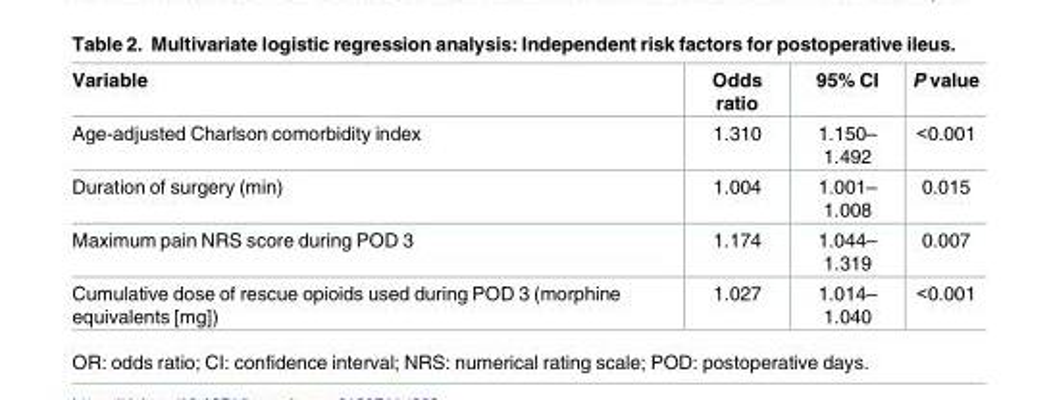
<table><thead><tr><td>Variable</td><td>Odds ratio</td><td>95% CI</td><td>P value</td></tr></thead><tbody><tr><td>Age-adjusted Charlson comorbidity index</td><td>1.310</td><td>1.150– 1.492</td><td>&lt;0.001</td></tr><tr><td>Duration of surgery (min)</td><td>1.004</td><td>1.001– 1.008</td><td>0.015</td></tr><tr><td>Maximum pain NRS score during POD 3</td><td>1.174</td><td>1.044– 1.319</td><td>0.007</td></tr><tr><td>Cumulative dose of rescue opioids used during POD 3 (morphine equivalents [mg])</td><td>1.027</td><td>1.014– 1.040</td><td>&lt;0.001</td></tr></tbody></table>